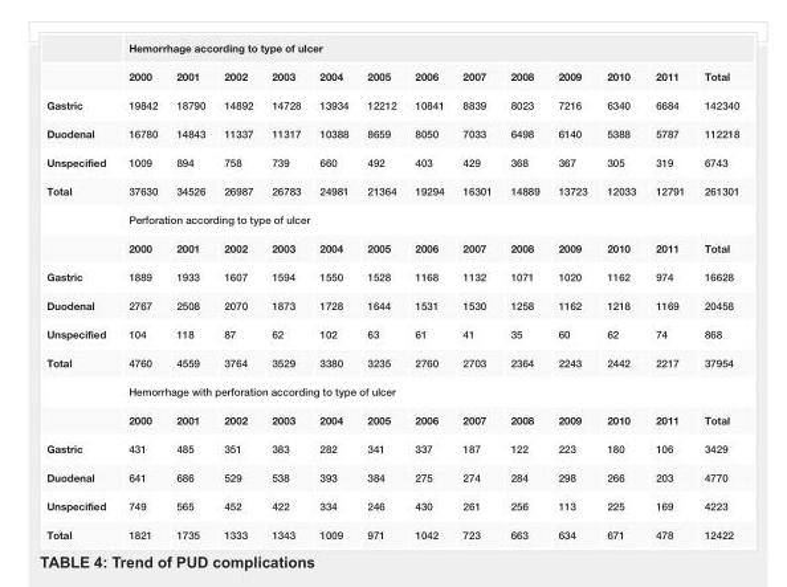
<table><thead><tr><td rowspan="2"></td><td colspan="13">Hemorrhage according to type of ulcer</td></tr><tr><td>2000</td><td>2001</td><td>2002</td><td>2003</td><td>2004</td><td>2005</td><td>2006</td><td>2007</td><td>2008</td><td>2009</td><td>2010</td><td>2011</td><td>Total</td></tr></thead><tbody><tr><td>Gastric</td><td>19842</td><td>18790</td><td>14892</td><td>14728</td><td>13934</td><td>12212</td><td>10841</td><td>8839</td><td>8023</td><td>7216</td><td>6340</td><td>6684</td><td>142340</td></tr><tr><td>Duodenal</td><td>16780</td><td>14843</td><td>11337</td><td>11317</td><td>10388</td><td>8659</td><td>8050</td><td>7033</td><td>6498</td><td>6140</td><td>5388</td><td>5787</td><td>112218</td></tr><tr><td>Unspecified</td><td>1009</td><td>894</td><td>758</td><td>739</td><td>660</td><td>492</td><td>403</td><td>429</td><td>368</td><td>367</td><td>305</td><td>319</td><td>6743</td></tr><tr><td rowspan="3">Total</td><td>37630</td><td>34526</td><td>26987</td><td>26783</td><td>24981</td><td>21364</td><td>19294</td><td>16301</td><td>14889</td><td>13723</td><td>12033</td><td>12791</td><td>261301</td></tr><tr><td colspan="13">Perforation according to type of ulcer</td></tr><tr><td>2000</td><td>2001</td><td>2002</td><td>2003</td><td>2004</td><td>2005</td><td>2006</td><td>2007</td><td>2008</td><td>2009</td><td>2010</td><td>2011</td><td>Total</td></tr><tr><td>Gastric</td><td>1889</td><td>1933</td><td>1607</td><td>1594</td><td>1550</td><td>1528</td><td>1168</td><td>1132</td><td>1071</td><td>1020</td><td>1162</td><td>974</td><td>16628</td></tr><tr><td>Duodenal</td><td>2767</td><td>2508</td><td>2070</td><td>1873</td><td>1728</td><td>1644</td><td>1531</td><td>1530</td><td>1258</td><td>1162</td><td>1218</td><td>1169</td><td>20458</td></tr><tr><td>Unspecified</td><td>104</td><td>118</td><td>87</td><td>62</td><td>102</td><td>63</td><td>61</td><td>41</td><td>35</td><td>60</td><td>62</td><td>74</td><td>868</td></tr><tr><td rowspan="3">Total</td><td>4760</td><td>4559</td><td>3764</td><td>3529</td><td>3380</td><td>3235</td><td>2760</td><td>2703</td><td>2364</td><td>2243</td><td>2442</td><td>2217</td><td>37954</td></tr><tr><td colspan="13">Hemorrhage with perforation according to type of ulcer</td></tr><tr><td>2000</td><td>2001</td><td>2002</td><td>2003</td><td>2004</td><td>2005</td><td>2006</td><td>2007</td><td>2008</td><td>2009</td><td>2010</td><td>2011</td><td>Total</td></tr><tr><td>Gastric</td><td>431</td><td>485</td><td>351</td><td>383</td><td>282</td><td>341</td><td>337</td><td>187</td><td>122</td><td>223</td><td>180</td><td>106</td><td>3429</td></tr><tr><td>Duodenal</td><td>641</td><td>686</td><td>529</td><td>538</td><td>393</td><td>384</td><td>275</td><td>274</td><td>284</td><td>298</td><td>266</td><td>203</td><td>4770</td></tr><tr><td>Unspecified</td><td>749</td><td>565</td><td>452</td><td>422</td><td>334</td><td>246</td><td>430</td><td>261</td><td>256</td><td>113</td><td>225</td><td>169</td><td>4223</td></tr><tr><td>Total</td><td>1821</td><td>1735</td><td>1333</td><td>1343</td><td>1009</td><td>971</td><td>1042</td><td>723</td><td>663</td><td>634</td><td>671</td><td>478</td><td>12422</td></tr></tbody></table>